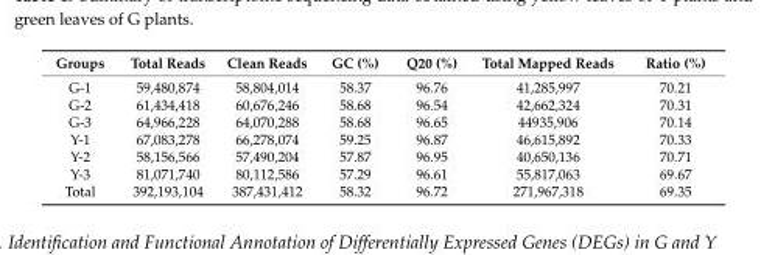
<table><thead><tr><td>Groups</td><td>Total Reads</td><td>Clean Reads</td><td>GC (%)</td><td>Q20 (%)</td><td>Total Mapped Reads</td><td>Ratio (%)</td></tr></thead><tbody><tr><td>G-1</td><td>59,480,874</td><td>58,804,014</td><td>58.37</td><td>96.76</td><td>41,285,997</td><td>70.21</td></tr><tr><td>G-2</td><td>61,434,418</td><td>60,676,246</td><td>58.68</td><td>96.54</td><td>42,662,324</td><td>70.31</td></tr><tr><td>G-3</td><td>64,966,228</td><td>64,070,288</td><td>58.68</td><td>96.65</td><td>44935,906</td><td>70.14</td></tr><tr><td>Y-1</td><td>67,083,278</td><td>66,278,074</td><td>59.25</td><td>96.87</td><td>46,615,892</td><td>70.33</td></tr><tr><td>Y-2</td><td>58,156,566</td><td>57,490,204</td><td>57.87</td><td>96.95</td><td>40,650,136</td><td>70.71</td></tr><tr><td>Y-3</td><td>81,071,740</td><td>80,112,586</td><td>57.29</td><td>96.61</td><td>55,817,063</td><td>69.67</td></tr><tr><td>Total</td><td>392,193,104</td><td>387,431,412</td><td>58.32</td><td>96.72</td><td>271,967,318</td><td>69.35</td></tr></tbody></table>